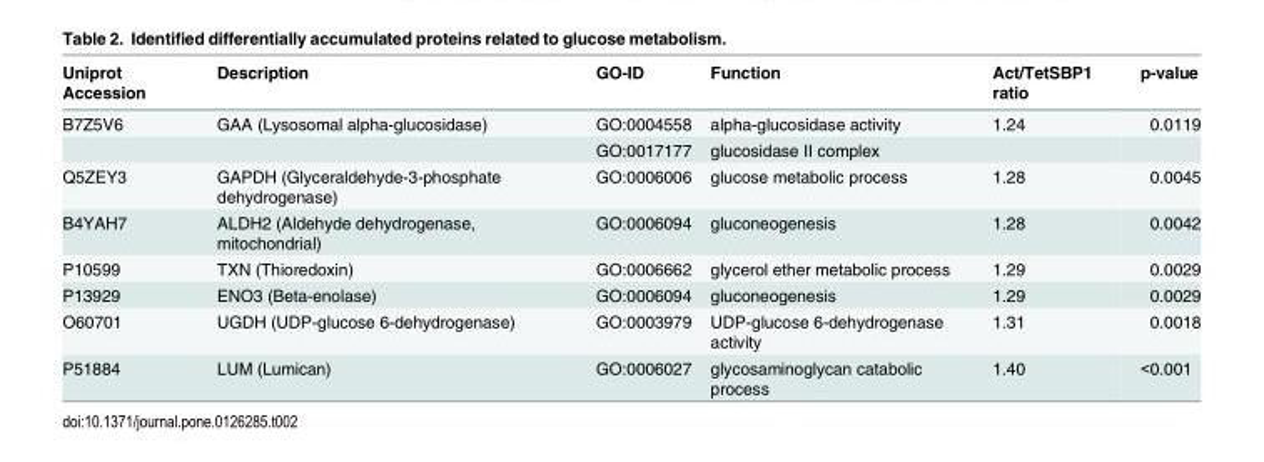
<table><thead><tr><td>Uniprot Accession</td><td>Description</td><td>GO-ID</td><td>Function</td><td>Act/TetSBP1 ratio</td><td>p-value</td></tr></thead><tbody><tr><td rowspan="2">B7Z5V6</td><td>GAA (Lysosomal alpha-glucosidase)</td><td>GO:0004558</td><td>alpha-glucosidase activity</td><td>1.24</td><td>0.0119</td></tr><tr><td></td><td>GO:0017177</td><td>glucosidase II complex</td><td></td><td></td></tr><tr><td>Q5ZEY3</td><td>GAPDH (Glyceraldehyde-3-phosphate dehydrogenase)</td><td>GO:0006006</td><td>glucose metabolic process</td><td>1.28</td><td>0.0045</td></tr><tr><td>B4YAH7</td><td>ALDH2 (Aldehyde dehydrogenase, mitochondrial)</td><td>GO:0006094</td><td>gluconeogenesis</td><td>1.28</td><td>0.0042</td></tr><tr><td>P10599</td><td>TXN (Thioredoxin)</td><td>GO:0006662</td><td>glycerol ether metabolic process</td><td>1.29</td><td>0.0029</td></tr><tr><td>P13929</td><td>ENO3 (Beta-enolase)</td><td>GO:0006094</td><td>gluconeogenesis</td><td>1.29</td><td>0.0029</td></tr><tr><td>O60701</td><td>UGDH (UDP-glucose 6-dehydrogenase)</td><td>GO:0003979</td><td>UDP-glucose 6-dehydrogenase activity</td><td>1.31</td><td>0.0018</td></tr><tr><td>P51884</td><td>LUM (Lumican)</td><td>GO:0006027</td><td>glycosaminoglycan catabolic process</td><td>1.40</td><td>&lt;0.001</td></tr></tbody></table>